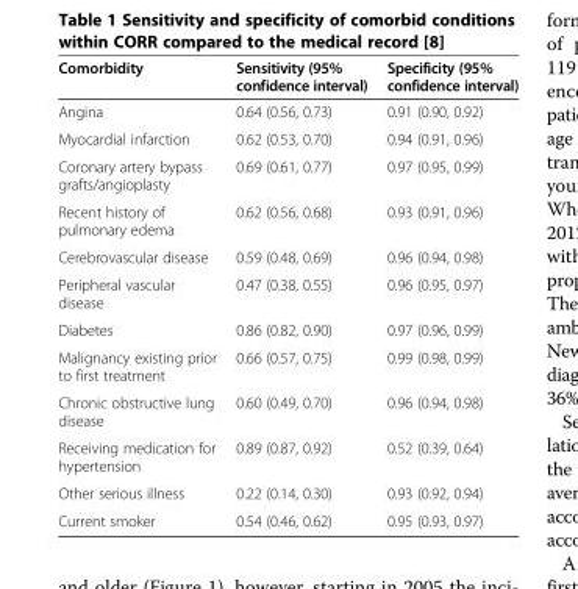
<table><thead><tr><td>Comorbidity</td><td>Sensitivity (95% confidence interval)</td><td>Specificity (95% confidence interval)</td></tr></thead><tbody><tr><td>Angina</td><td>0.64 (0.56, 0.73)</td><td>0.91 (0.90, 0.92)</td></tr><tr><td>Myocardial infarction</td><td>0.62 (0.53, 0.70)</td><td>0.94 (0.91, 0.96)</td></tr><tr><td>Coronary artery bypass grafts/angioplasty</td><td>0.69 (0.61, 0.77)</td><td>0.97 (0.95, 0.99)</td></tr><tr><td>Recent history of pulmonary edema</td><td>0.62 (0.56, 0.68)</td><td>0.93 (0.91, 0.96)</td></tr><tr><td>Cerebrovascular disease</td><td>0.59 (0.48, 0.69)</td><td>0.96 (0.94, 0.98)</td></tr><tr><td>Peripheral vascular disease</td><td>0.47 (0.38, 0.55)</td><td>0.96 (0.95, 0.97)</td></tr><tr><td>Diabetes</td><td>0.86 (0.82, 0.90)</td><td>0.97 (0.96, 0.99)</td></tr><tr><td>Malignancy existing prior to first treatment</td><td>0.66 (0.57, 0.75)</td><td>0.99 (0.98, 0.99)</td></tr><tr><td>Chronic obstructive lung disease</td><td>0.60 (0.49, 0.70)</td><td>0.96 (0.94, 0.98)</td></tr><tr><td>Receiving medication for hypertension</td><td>0.89 (0.87, 0.92)</td><td>0.52 (0.39, 0.64)</td></tr><tr><td>Other serious illness</td><td>0.22 (0.14, 0.30)</td><td>0.93 (0.92, 0.94)</td></tr><tr><td>Current smoker</td><td>0.54 (0.46, 0.62)</td><td>0.95 (0.93, 0.97)</td></tr></tbody></table>